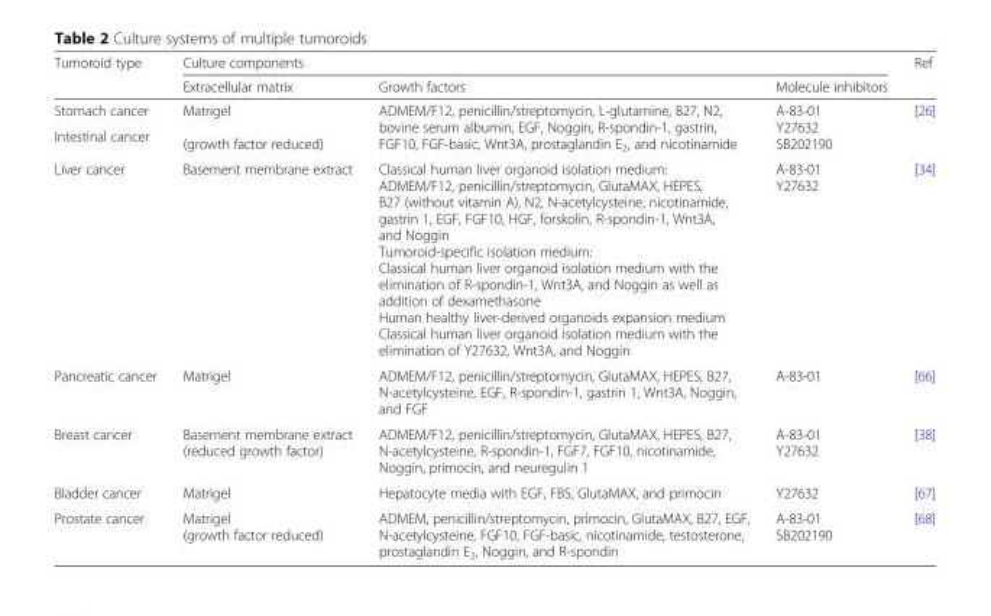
<table><thead><tr><td rowspan="2">Tumoroid type</td><td colspan="3">Culture components</td><td rowspan="2">Ref</td></tr><tr><td>Extracellular matrix</td><td>Growth factors</td><td>Molecule inhibitors</td></tr></thead><tbody><tr><td>Stomach cancer</td><td rowspan="2">Matrigel (growth factor reduced)</td><td rowspan="2">ADMEM/F12, penicillin/streptomycin, L-glutamine, B27, N2, bovine serum albumin, EGF, Noggin, R-spondin-1, gastrin, FGF10, FGF-basic, Wnt3A, prostaglandin E<sub>2</sub>, and nicotinamide</td><td rowspan="2">A-83-01 Y27632 SB202190</td><td rowspan="2">[26]</td></tr><tr><td>Intestinal cancer</td></tr><tr><td>Liver cancer</td><td>Basement membrane extract</td><td>Classical human liver organoid isolation medium: ADMEM/F12, penicillin/streptomycin, GlutaMAX, HEPES, B27 (without vitamin A), N2, N-acetylcysteine, nicotinamide, gastrin 1, EGF, FGF10, HGF, forskolin, R-spondin-1, Wnt3A, and Noggin Tumoroid-specific isolation medium: Classical human liver organoid isolation medium with the elimination of R-spondin-1, Wnt3A, and Noggin as well as addition of dexamethasone Human healthy liver-derived organoids expansion medium Classical human liver organoid isolation medium with the elimination of Y27632, Wnt3A, and Noggin</td><td>A-83-01 Y27632</td><td>[34]</td></tr><tr><td>Pancreatic cancer</td><td>Matrigel</td><td>ADMEM/F12, penicillin/streptomycin, GlutaMAX, HEPES, B27, N-acetylcysteine, EGF, R-spondin-1, gastrin 1, Wnt3A, Noggin, and FGF</td><td>A-83-01</td><td>[66]</td></tr><tr><td>Breast cancer</td><td>Basement membrane extract (reduced growth factor)</td><td>ADMEM/F12, penicillin/streptomycin, GlutaMAX, HEPES, B27, N-acetylcysteine, R-spondin-1, FGF7, FGF10, nicotinamide, Noggin, primocin, and neuregulin 1</td><td>A-83-01 Y27632</td><td>[38]</td></tr><tr><td>Bladder cancer</td><td>Matrigel</td><td>Hepatocyte media with EGF, FBS, GlutaMAX, and primocin</td><td>Y27632</td><td>[67]</td></tr><tr><td>Prostate cancer</td><td>Matrigel (growth factor reduced)</td><td>ADMEM, penicillin/streptomycin, primocin, GlutaMAX, B27, EGF, N-acetylcysteine, FGF10, FGF-basic, nicotinamide, testosterone, prostaglandin E<sub>2</sub>, Noggin, and R-spondin</td><td>A-83-01 SB202190</td><td>[68]</td></tr></tbody></table>